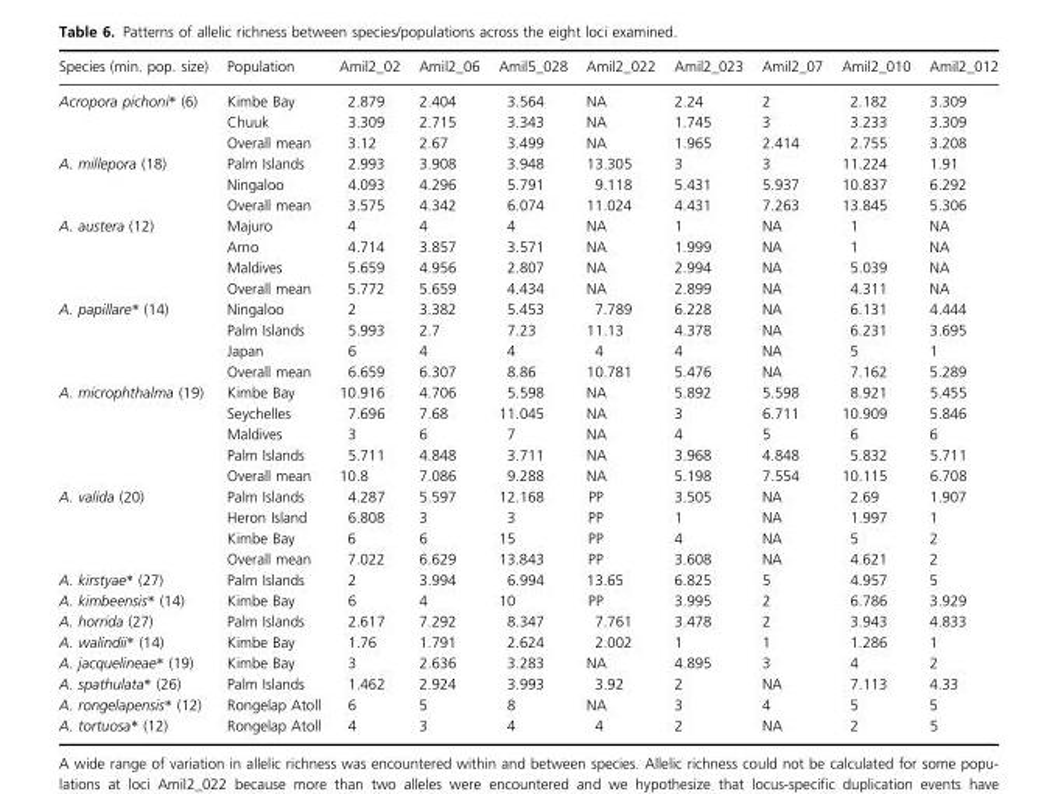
<table><thead><tr><td>Species (min. pop. size)</td><td>Population</td><td>Amil2_02</td><td>Amil2_06</td><td>Amil5_028</td><td>Amil2_022</td><td>Amil2_023</td><td>Amil2_07</td><td>Amil2_010</td><td>Amil2_012</td></tr></thead><tbody><tr><td rowspan="3">Acropora pichoni* (6)</td><td>Kimbe Bay</td><td>2.879</td><td>2.404</td><td>3.564</td><td>NA</td><td>2.24</td><td>2</td><td>2.182</td><td>3.309</td></tr><tr><td>Chuuk</td><td>3.309</td><td>2.715</td><td>3.343</td><td>NA</td><td>1.745</td><td>3</td><td>3.233</td><td>3.309</td></tr><tr><td>Overall mean</td><td>3.12</td><td>2.67</td><td>3.499</td><td>NA</td><td>1.965</td><td>2.414</td><td>2.755</td><td>3.208</td></tr><tr><td rowspan="3">A. millepora (18)</td><td>Palm Islands</td><td>2.993</td><td>3.908</td><td>3.948</td><td>13.305</td><td>3</td><td>3</td><td>11.224</td><td>1.91</td></tr><tr><td>Ningaloo</td><td>4.093</td><td>4.296</td><td>5.791</td><td>9.118</td><td>5.431</td><td>5.937</td><td>10.837</td><td>6.292</td></tr><tr><td>Overall mean</td><td>3.575</td><td>4.342</td><td>6.074</td><td>11.024</td><td>4.431</td><td>7.263</td><td>13.845</td><td>5.306</td></tr><tr><td rowspan="4">A. austera (12)</td><td>Majuro</td><td>4</td><td>4</td><td>4</td><td>NA</td><td>1</td><td>NA</td><td>1</td><td>NA</td></tr><tr><td>Arno</td><td>4.714</td><td>3.857</td><td>3.571</td><td>NA</td><td>1.999</td><td>NA</td><td>1</td><td>NA</td></tr><tr><td>Maldives</td><td>5.659</td><td>4.956</td><td>2.807</td><td>NA</td><td>2.994</td><td>NA</td><td>5.039</td><td>NA</td></tr><tr><td>Overall mean</td><td>5.772</td><td>5.659</td><td>4.434</td><td>NA</td><td>2.899</td><td>NA</td><td>4.311</td><td>NA</td></tr><tr><td rowspan="4">A. papillare* (14)</td><td>Ningaloo</td><td>2</td><td>3.382</td><td>5.453</td><td>7.789</td><td>6.228</td><td>NA</td><td>6.131</td><td>4.444</td></tr><tr><td>Palm Islands</td><td>5.993</td><td>2.7</td><td>7.23</td><td>11.13</td><td>4.378</td><td>NA</td><td>6.231</td><td>3.695</td></tr><tr><td>Japan</td><td>6</td><td>4</td><td>4</td><td>4</td><td>4</td><td>NA</td><td>5</td><td>1</td></tr><tr><td>Overall mean</td><td>6.659</td><td>6.307</td><td>8.86</td><td>10.781</td><td>5.476</td><td>NA</td><td>7.162</td><td>5.289</td></tr><tr><td rowspan="5">A. microphthalma (19)</td><td>Kimbe Bay</td><td>10.916</td><td>4.706</td><td>5.598</td><td>NA</td><td>5.892</td><td>5.598</td><td>8.921</td><td>5.455</td></tr><tr><td>Seychelles</td><td>7.696</td><td>7.68</td><td>11.045</td><td>NA</td><td>3</td><td>6.711</td><td>10.909</td><td>5.846</td></tr><tr><td>Maldives</td><td>3</td><td>6</td><td>7</td><td>NA</td><td>4</td><td>5</td><td>6</td><td>6</td></tr><tr><td>Palm Islands</td><td>5.711</td><td>4.848</td><td>3.711</td><td>NA</td><td>3.968</td><td>4.848</td><td>5.832</td><td>5.711</td></tr><tr><td>Overall mean</td><td>10.8</td><td>7.086</td><td>9.288</td><td>NA</td><td>5.198</td><td>7.554</td><td>10.115</td><td>6.708</td></tr><tr><td rowspan="4">A. valida (20)</td><td>Palm Islands</td><td>4.287</td><td>5.597</td><td>12.168</td><td>PP</td><td>3.505</td><td>NA</td><td>2.69</td><td>1.907</td></tr><tr><td>Heron Island</td><td>6.808</td><td>3</td><td>3</td><td>PP</td><td>1</td><td>NA</td><td>1.997</td><td>1</td></tr><tr><td>Kimbe Bay</td><td>6</td><td>6</td><td>15</td><td>PP</td><td>4</td><td>NA</td><td>5</td><td>2</td></tr><tr><td>Overall mean</td><td>7.022</td><td>6.629</td><td>13.843</td><td>PP</td><td>3.608</td><td>NA</td><td>4.621</td><td>2</td></tr><tr><td>A. kirstyae* (27)</td><td>Palm Islands</td><td>2</td><td>3.994</td><td>6.994</td><td>13.65</td><td>6.825</td><td>5</td><td>4.957</td><td>5</td></tr><tr><td>A. kimbeensis* (14)</td><td>Kimbe Bay</td><td>6</td><td>4</td><td>10</td><td>PP</td><td>3.995</td><td>2</td><td>6.786</td><td>3.929</td></tr><tr><td>A. horrida (27)</td><td>Palm Islands</td><td>2.617</td><td>7.292</td><td>8.347</td><td>7.761</td><td>3.478</td><td>2</td><td>3.943</td><td>4.833</td></tr><tr><td>A. walindii* (14)</td><td>Kimbe Bay</td><td>1.76</td><td>1.791</td><td>2.624</td><td>2.002</td><td>1</td><td>1</td><td>1.286</td><td>1</td></tr><tr><td>A. jacquelineae* (19)</td><td>Kimbe Bay</td><td>3</td><td>2.636</td><td>3.283</td><td>NA</td><td>4.895</td><td>3</td><td>4</td><td>2</td></tr><tr><td>A. spathulata* (26)</td><td>Palm Islands</td><td>1.462</td><td>2.924</td><td>3.993</td><td>3.92</td><td>2</td><td>NA</td><td>7.113</td><td>4.33</td></tr><tr><td>A. rongelapensis* (12)</td><td>Rongelap Atoll</td><td>6</td><td>5</td><td>8</td><td>NA</td><td>3</td><td>4</td><td>5</td><td>5</td></tr><tr><td>A. tortuosa* (12)</td><td>Rongelap Atoll</td><td>4</td><td>3</td><td>4</td><td>4</td><td>2</td><td>NA</td><td>2</td><td>5</td></tr></tbody></table>